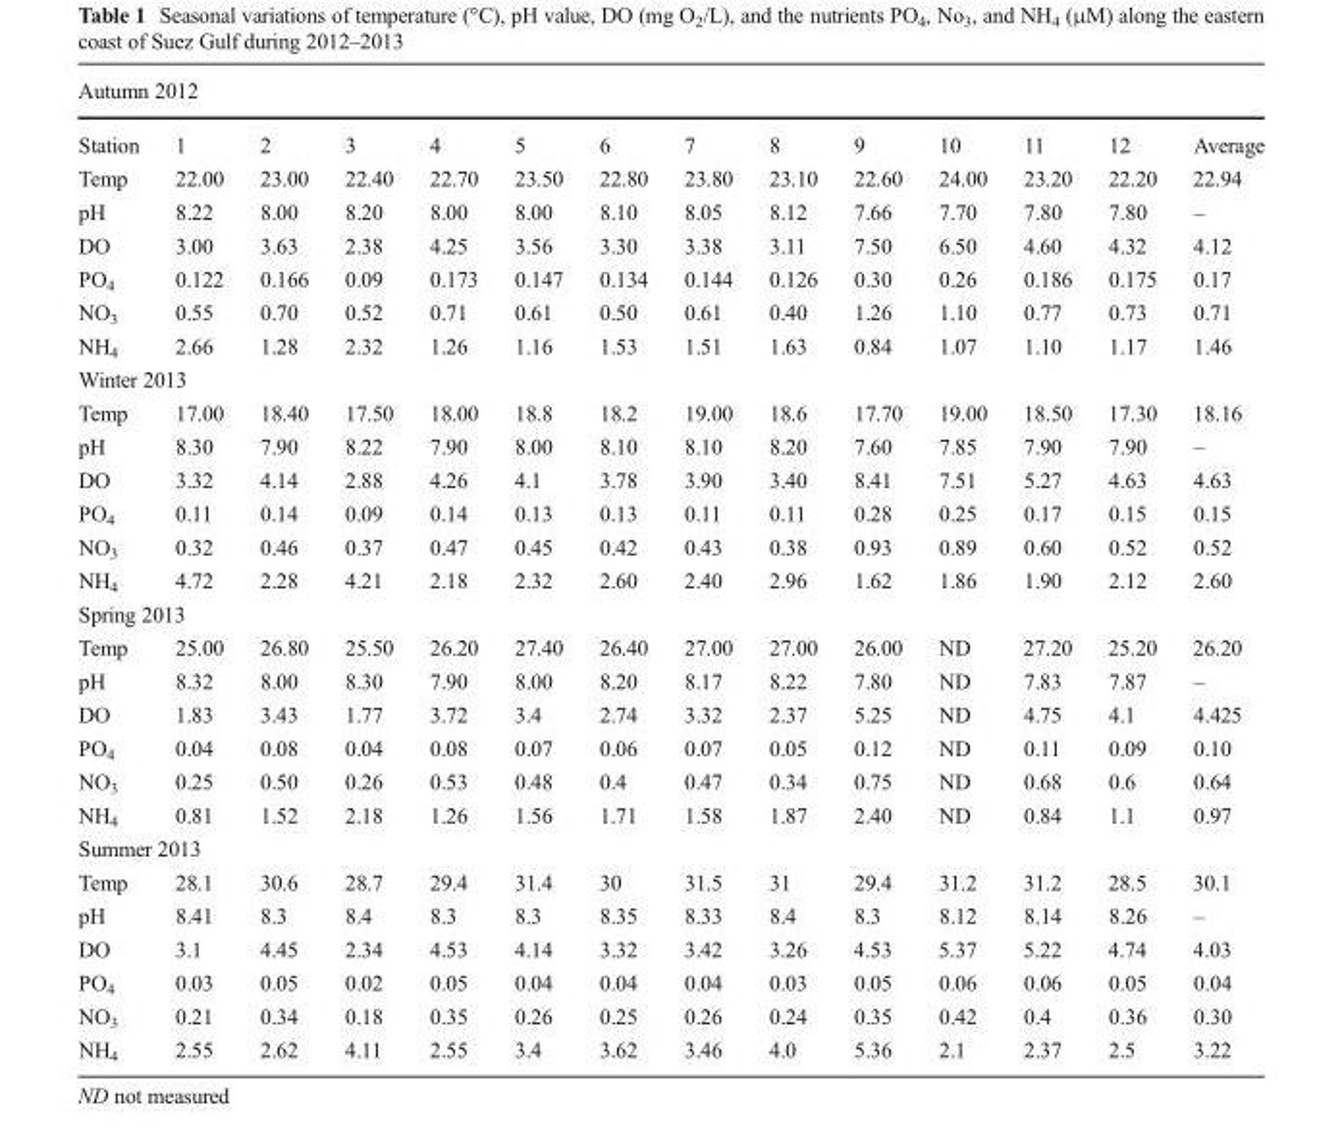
<table><thead><tr><td colspan="14">Autumn 2012</td></tr><tr><td>Station</td><td>1</td><td>2</td><td>3</td><td>4</td><td>5</td><td>6</td><td>7</td><td>8</td><td>9</td><td>10</td><td>11</td><td>12</td><td>Average</td></tr></thead><tbody><tr><td>Temp</td><td>22.00</td><td>23.00</td><td>22.40</td><td>22.70</td><td>23.50</td><td>22.80</td><td>23.80</td><td>23.10</td><td>22.60</td><td>24.00</td><td>23.20</td><td>22.20</td><td>22.94</td></tr><tr><td>pH</td><td>8.22</td><td>8.00</td><td>8.20</td><td>8.00</td><td>8.00</td><td>8.10</td><td>8.05</td><td>8.12</td><td>7.66</td><td>7.70</td><td>7.80</td><td>7.80</td><td>–</td></tr><tr><td>DO</td><td>3.00</td><td>3.63</td><td>2.38</td><td>4.25</td><td>3.56</td><td>3.30</td><td>3.38</td><td>3.11</td><td>7.50</td><td>6.50</td><td>4.60</td><td>4.32</td><td>4.12</td></tr><tr><td>PO<sub>4</sub></td><td>0.122</td><td>0.166</td><td>0.09</td><td>0.173</td><td>0.147</td><td>0.134</td><td>0.144</td><td>0.126</td><td>0.30</td><td>0.26</td><td>0.186</td><td>0.175</td><td>0.17</td></tr><tr><td>NO<sub>3</sub></td><td>0.55</td><td>0.70</td><td>0.52</td><td>0.71</td><td>0.61</td><td>0.50</td><td>0.61</td><td>0.40</td><td>1.26</td><td>1.10</td><td>0.77</td><td>0.73</td><td>0.71</td></tr><tr><td>NH<sub>4</sub></td><td>2.66</td><td>1.28</td><td>2.32</td><td>1.26</td><td>1.16</td><td>1.53</td><td>1.51</td><td>1.63</td><td>0.84</td><td>1.07</td><td>1.10</td><td>1.17</td><td>1.46</td></tr><tr><td colspan="14">Winter 2013</td></tr><tr><td>Temp</td><td>17.00</td><td>18.40</td><td>17.50</td><td>18.00</td><td>18.8</td><td>18.2</td><td>19.00</td><td>18.6</td><td>17.70</td><td>19.00</td><td>18.50</td><td>17.30</td><td>18.16</td></tr><tr><td>pH</td><td>8.30</td><td>7.90</td><td>8.22</td><td>7.90</td><td>8.00</td><td>8.10</td><td>8.10</td><td>8.20</td><td>7.60</td><td>7.85</td><td>7.90</td><td>7.90</td><td>–</td></tr><tr><td>DO</td><td>3.32</td><td>4.14</td><td>2.88</td><td>4.26</td><td>4.1</td><td>3.78</td><td>3.90</td><td>3.40</td><td>8.41</td><td>7.51</td><td>5.27</td><td>4.63</td><td>4.63</td></tr><tr><td>PO<sub>4</sub></td><td>0.11</td><td>0.14</td><td>0.09</td><td>0.14</td><td>0.13</td><td>0.13</td><td>0.11</td><td>0.11</td><td>0.28</td><td>0.25</td><td>0.17</td><td>0.15</td><td>0.15</td></tr><tr><td>NO<sub>3</sub></td><td>0.32</td><td>0.46</td><td>0.37</td><td>0.47</td><td>0.45</td><td>0.42</td><td>0.43</td><td>0.38</td><td>0.93</td><td>0.89</td><td>0.60</td><td>0.52</td><td>0.52</td></tr><tr><td>NH<sub>4</sub></td><td>4.72</td><td>2.28</td><td>4.21</td><td>2.18</td><td>2.32</td><td>2.60</td><td>2.40</td><td>2.96</td><td>1.62</td><td>1.86</td><td>1.90</td><td>2.12</td><td>2.60</td></tr><tr><td colspan="14">Spring 2013</td></tr><tr><td>Temp</td><td>25.00</td><td>26.80</td><td>25.50</td><td>26.20</td><td>27.40</td><td>26.40</td><td>27.00</td><td>27.00</td><td>26.00</td><td>ND</td><td>27.20</td><td>25.20</td><td>26.20</td></tr><tr><td>pH</td><td>8.32</td><td>8.00</td><td>8.30</td><td>7.90</td><td>8.00</td><td>8.20</td><td>8.17</td><td>8.22</td><td>7.80</td><td>ND</td><td>7.83</td><td>7.87</td><td>–</td></tr><tr><td>DO</td><td>1.83</td><td>3.43</td><td>1.77</td><td>3.72</td><td>3.4</td><td>2.74</td><td>3.32</td><td>2.37</td><td>5.25</td><td>ND</td><td>4.75</td><td>4.1</td><td>4.425</td></tr><tr><td>PO<sub>4</sub></td><td>0.04</td><td>0.08</td><td>0.04</td><td>0.08</td><td>0.07</td><td>0.06</td><td>0.07</td><td>0.05</td><td>0.12</td><td>ND</td><td>0.11</td><td>0.09</td><td>0.10</td></tr><tr><td>NO<sub>3</sub></td><td>0.25</td><td>0.50</td><td>0.26</td><td>0.53</td><td>0.48</td><td>0.4</td><td>0.47</td><td>0.34</td><td>0.75</td><td>ND</td><td>0.68</td><td>0.6</td><td>0.64</td></tr><tr><td>NH<sub>4</sub></td><td>0.81</td><td>1.52</td><td>2.18</td><td>1.26</td><td>1.56</td><td>1.71</td><td>1.58</td><td>1.87</td><td>2.40</td><td>ND</td><td>0.84</td><td>1.1</td><td>0.97</td></tr><tr><td colspan="14">Summer 2013</td></tr><tr><td>Temp</td><td>28.1</td><td>30.6</td><td>28.7</td><td>29.4</td><td>31.4</td><td>30</td><td>31.5</td><td>31</td><td>29.4</td><td>31.2</td><td>31.2</td><td>28.5</td><td>30.1</td></tr><tr><td>pH</td><td>8.41</td><td>8.3</td><td>8.4</td><td>8.3</td><td>8.3</td><td>8.35</td><td>8.33</td><td>8.4</td><td>8.3</td><td>8.12</td><td>8.14</td><td>8.26</td><td>–</td></tr><tr><td>DO</td><td>3.1</td><td>4.45</td><td>2.34</td><td>4.53</td><td>4.14</td><td>3.32</td><td>3.42</td><td>3.26</td><td>4.53</td><td>5.37</td><td>5.22</td><td>4.74</td><td>4.03</td></tr><tr><td>PO<sub>4</sub></td><td>0.03</td><td>0.05</td><td>0.02</td><td>0.05</td><td>0.04</td><td>0.04</td><td>0.04</td><td>0.03</td><td>0.05</td><td>0.06</td><td>0.06</td><td>0.05</td><td>0.04</td></tr><tr><td>NO<sub>3</sub></td><td>0.21</td><td>0.34</td><td>0.18</td><td>0.35</td><td>0.26</td><td>0.25</td><td>0.26</td><td>0.24</td><td>0.35</td><td>0.42</td><td>0.4</td><td>0.36</td><td>0.30</td></tr><tr><td>NH<sub>4</sub></td><td>2.55</td><td>2.62</td><td>4.11</td><td>2.55</td><td>3.4</td><td>3.62</td><td>3.46</td><td>4.0</td><td>5.36</td><td>2.1</td><td>2.37</td><td>2.5</td><td>3.22</td></tr></tbody></table>